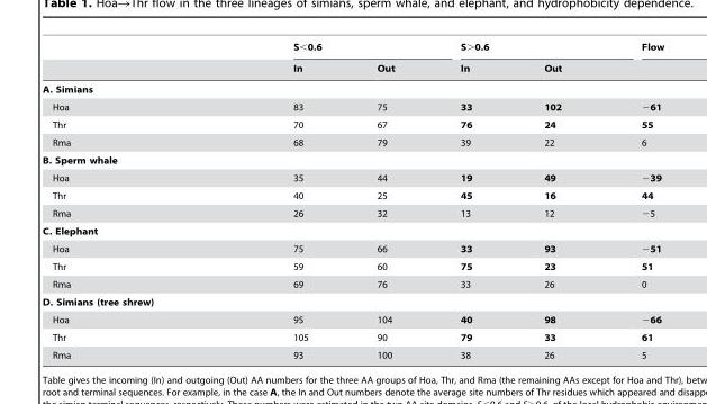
<table><thead><tr><td rowspan="2"></td><td colspan="2">S&lt;0.6</td><td colspan="2">S&gt;0.6</td><td rowspan="2">Flow</td></tr><tr><td>In</td><td>Out</td><td>In</td><td>Out</td></tr></thead><tbody><tr><td colspan="6">A. Simians</td></tr><tr><td>Hoa</td><td>83</td><td>75</td><td>33</td><td>102</td><td>−61</td></tr><tr><td>Thr</td><td>70</td><td>67</td><td>76</td><td>24</td><td>55</td></tr><tr><td>Rma</td><td>68</td><td>79</td><td>39</td><td>22</td><td>6</td></tr><tr><td colspan="6">B. Sperm whale</td></tr><tr><td>Hoa</td><td>35</td><td>44</td><td>19</td><td>49</td><td>−39</td></tr><tr><td>Thr</td><td>40</td><td>25</td><td>45</td><td>16</td><td>44</td></tr><tr><td>Rma</td><td>26</td><td>32</td><td>13</td><td>12</td><td>−5</td></tr><tr><td colspan="6">C. Elephant</td></tr><tr><td>Hoa</td><td>75</td><td>66</td><td>33</td><td>93</td><td>−51</td></tr><tr><td>Thr</td><td>59</td><td>60</td><td>75</td><td>23</td><td>51</td></tr><tr><td>Rma</td><td>69</td><td>76</td><td>33</td><td>26</td><td>0</td></tr><tr><td colspan="6">D. Simians (tree shrew)</td></tr><tr><td>Hoa</td><td>95</td><td>104</td><td>40</td><td>98</td><td>−66</td></tr><tr><td>Thr</td><td>105</td><td>90</td><td>79</td><td>33</td><td>61</td></tr><tr><td>Rma</td><td>93</td><td>100</td><td>38</td><td>26</td><td>5</td></tr></tbody></table>